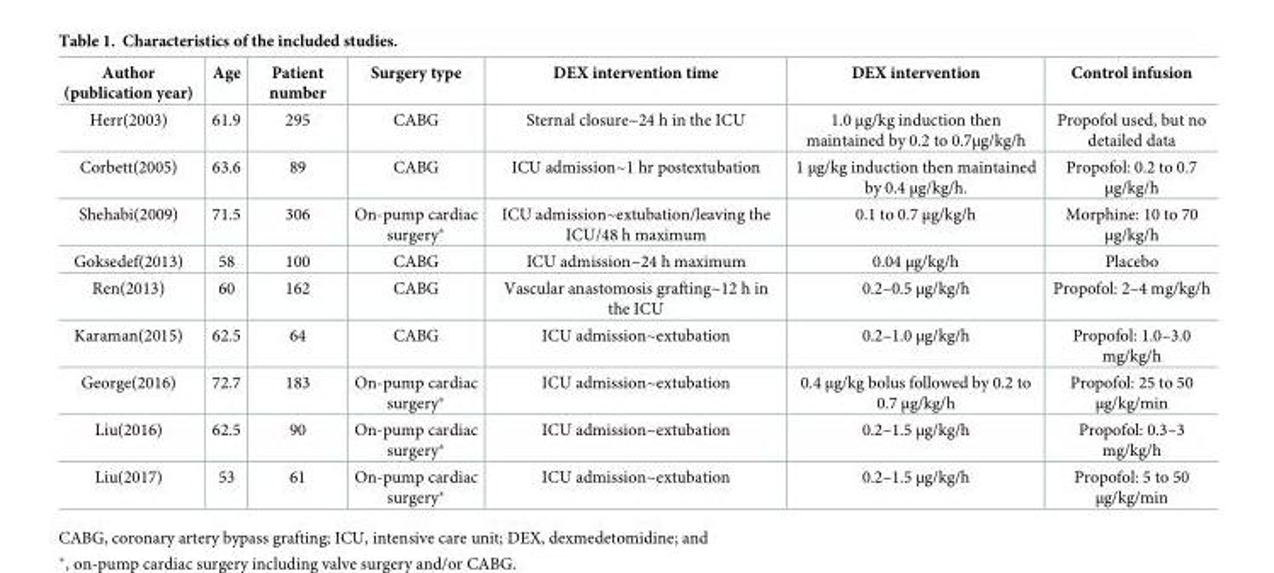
<table><thead><tr><td>Author (publication year)</td><td>Age</td><td>Patient number</td><td>Surgery type</td><td>DEX intervention time</td><td>DEX intervention</td><td>Control infusion</td></tr></thead><tbody><tr><td>Herr(2003)</td><td>61.9</td><td>295</td><td>CABG</td><td>Sternal closure~24 h in the ICU</td><td>1.0 μg/kg induction then maintained by 0.2 to 0.7μg/kg/h</td><td>Propofol used, but no detailed data</td></tr><tr><td>Corbett(2005)</td><td>63.6</td><td>89</td><td>CABG</td><td>ICU admission~1 hr postextubation</td><td>1 μg/kg induction then maintained by 0.4 μg/kg/h.</td><td>Propofol: 0.2 to 0.7 μg/kg/h</td></tr><tr><td>Shehabi(2009)</td><td>71.5</td><td>306</td><td>On-pump cardiac surgery*</td><td>ICU admission~extubation/leaving the ICU/48 h maximum</td><td>0.1 to 0.7 μg/kg/h</td><td>Morphine: 10 to 70 μg/kg/h</td></tr><tr><td>Goksedef(2013)</td><td>58</td><td>100</td><td>CABG</td><td>ICU admission~24 h maximum</td><td>0.04 μg/kg/h</td><td>Placebo</td></tr><tr><td>Ren(2013)</td><td>60</td><td>162</td><td>CABG</td><td>Vascular anastomosis grafting~12 h in the ICU</td><td>0.2–0.5 μg/kg/h</td><td>Propofol: 2–4 mg/kg/h</td></tr><tr><td>Karaman(2015)</td><td>62.5</td><td>64</td><td>CABG</td><td>ICU admission~extubation</td><td>0.2–1.0 μg/kg/h</td><td>Propofol: 1.0–3.0 mg/kg/h</td></tr><tr><td>George(2016)</td><td>72.7</td><td>183</td><td>On-pump cardiac surgery*</td><td>ICU admission~extubation</td><td>0.4 μg/kg bolus followed by 0.2 to 0.7 μg/kg/h</td><td>Propofol: 25 to 50 μg/kg/min</td></tr><tr><td>Liu(2016)</td><td>62.5</td><td>90</td><td>On-pump cardiac surgery*</td><td>ICU admission~extubation</td><td>0.2–1.5 μg/kg/h</td><td>Propofol: 0.3–3 mg/kg/h</td></tr><tr><td>Liu(2017)</td><td>53</td><td>61</td><td>On-pump cardiac surgery*</td><td>ICU admission~extubation</td><td>0.2–1.5 μg/kg/h</td><td>Propofol: 5 to 50 μg/kg/min</td></tr></tbody></table>